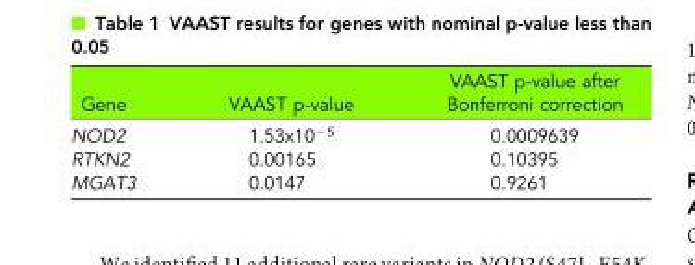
<table><thead><tr><td>Gene</td><td>VAAST p-value</td><td>VAAST p-value after Bonferroni correction</td></tr></thead><tbody><tr><td>NOD2</td><td>1.53x10<sup>−5</sup></td><td>0.0009639</td></tr><tr><td>RTKN2</td><td>0.00165</td><td>0.10395</td></tr><tr><td>MGAT3</td><td>0.0147</td><td>0.9261</td></tr></tbody></table>